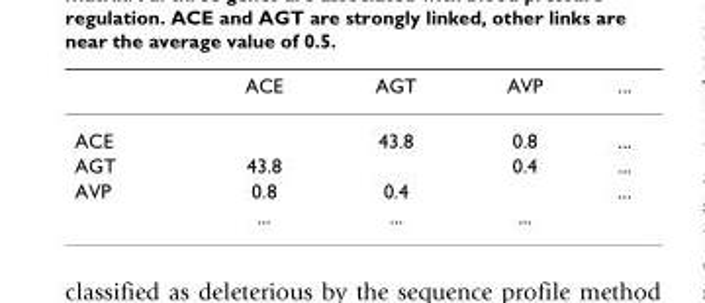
<table><thead><tr><td></td><td>ACE</td><td>AGT</td><td>AVP</td><td>...</td></tr></thead><tbody><tr><td>ACE</td><td></td><td>43.8</td><td>0.8</td><td>...</td></tr><tr><td>AGT</td><td>43.8</td><td></td><td>0.4</td><td>...</td></tr><tr><td rowspan="2">AVP</td><td>0.8</td><td>0.4</td><td></td><td>...</td></tr><tr><td>...</td><td>...</td><td>...</td><td></td></tr></tbody></table>